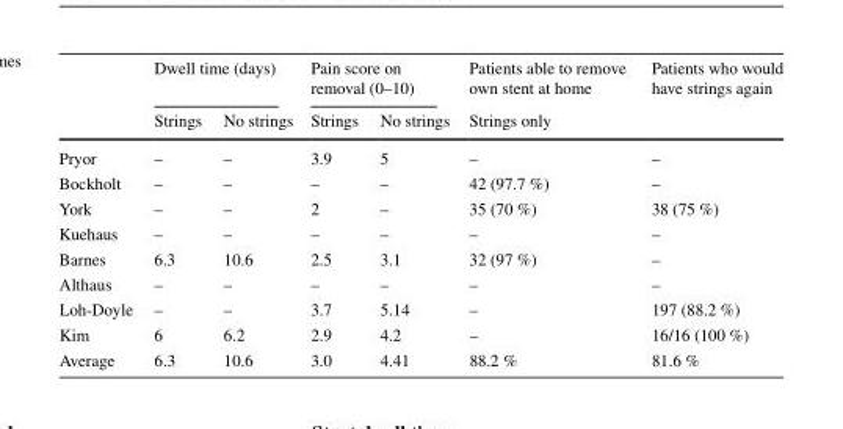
<table><thead><tr><td rowspan="2"></td><td colspan="2">Dwell time (days)</td><td colspan="2">Pain score on removal (0–10)</td><td rowspan="2">Patients able to remove own stent at home Strings only</td><td rowspan="2">Patients who would have strings again</td></tr><tr><td>Strings</td><td>No strings</td><td>Strings</td><td>No strings</td></tr></thead><tbody><tr><td>Pryor</td><td>–</td><td>–</td><td>3.9</td><td>5</td><td>–</td><td>–</td></tr><tr><td>Bockholt</td><td>–</td><td>–</td><td>–</td><td>–</td><td>42 (97.7 %)</td><td>–</td></tr><tr><td>York</td><td>–</td><td>–</td><td>2</td><td>–</td><td>35 (70 %)</td><td>38 (75 %)</td></tr><tr><td>Kuehaus</td><td>–</td><td>–</td><td>–</td><td>–</td><td>–</td><td>–</td></tr><tr><td>Barnes</td><td>6.3</td><td>10.6</td><td>2.5</td><td>3.1</td><td>32 (97 %)</td><td>–</td></tr><tr><td>Althaus</td><td>–</td><td>–</td><td>–</td><td>–</td><td>–</td><td>–</td></tr><tr><td>Loh-Doyle</td><td>–</td><td>–</td><td>3.7</td><td>5.14</td><td>–</td><td>197 (88.2 %)</td></tr><tr><td>Kim</td><td>6</td><td>6.2</td><td>2.9</td><td>4.2</td><td>–</td><td>16/16 (100 %)</td></tr><tr><td>Average</td><td>6.3</td><td>10.6</td><td>3.0</td><td>4.41</td><td>88.2 %</td><td>81.6 %</td></tr></tbody></table>